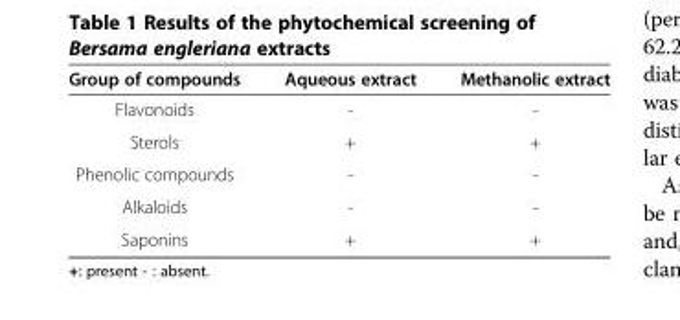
<table><thead><tr><td>Group of compounds</td><td>Aqueous extract</td><td>Methanolic extract</td></tr></thead><tbody><tr><td>Flavonoids</td><td>-</td><td>-</td></tr><tr><td>Sterols</td><td>+</td><td>+</td></tr><tr><td>Phenolic compounds</td><td>-</td><td>-</td></tr><tr><td>Alkaloids</td><td>-</td><td>-</td></tr><tr><td>Saponins</td><td>+</td><td>+</td></tr></tbody></table>